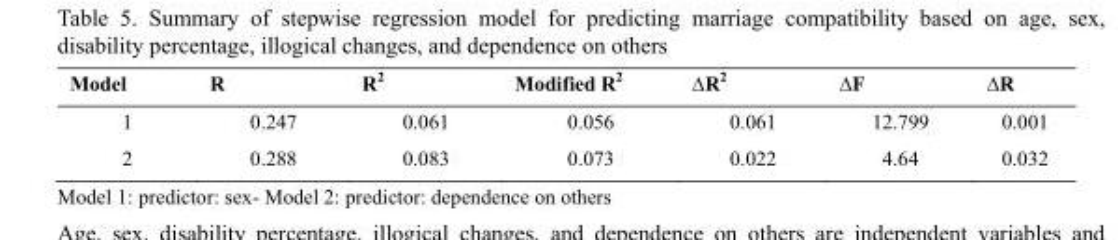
<table><thead><tr><td>Model</td><td>R</td><td>R<sup>2</sup></td><td>Modified R<sup>2</sup></td><td>∆R<sup>2</sup></td><td>∆F</td><td>∆R</td></tr></thead><tbody><tr><td>1</td><td>0.247</td><td>0.061</td><td>0.056</td><td>0.061</td><td>12.799</td><td>0.001</td></tr><tr><td>2</td><td>0.288</td><td>0.083</td><td>0.073</td><td>0.022</td><td>4.64</td><td>0.032</td></tr></tbody></table>